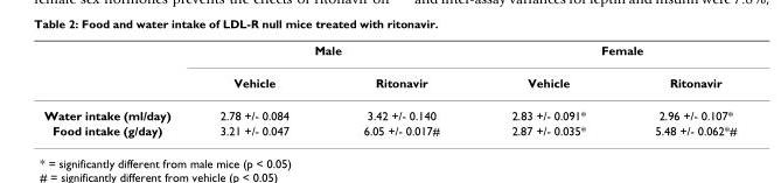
<table><thead><tr><td rowspan="2"></td><td colspan="2">Male</td><td colspan="2">Female</td></tr><tr><td>Vehicle</td><td>Ritonavir</td><td>Vehicle</td><td>Ritonavir</td></tr></thead><tbody><tr><td>Water intake (ml/day)</td><td>2.78 +/- 0.084</td><td>3.42 +/- 0.140</td><td>2.83 +/- 0.091*</td><td>2.96 +/- 0.107*</td></tr><tr><td>Food intake (g/day)</td><td>3.21 +/- 0.047</td><td>6.05 +/- 0.017#</td><td>2.87 +/- 0.035*</td><td>5.48 +/- 0.062*#</td></tr></tbody></table>